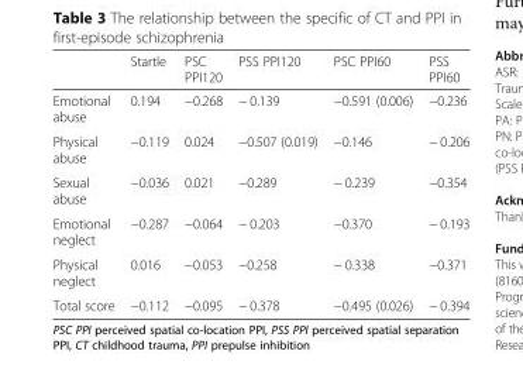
<table><thead><tr><td></td><td>Startle</td><td>PSC PPI120</td><td>PSS PPI120</td><td>PSC PPI60</td><td>PSS PPI60</td></tr></thead><tbody><tr><td>Emotional abuse</td><td>0.194</td><td>−0.268</td><td>− 0.139</td><td>−0.591 (0.006)</td><td>−0.236</td></tr><tr><td>Physical abuse</td><td>−0.119</td><td>0.024</td><td>−0.507 (0.019)</td><td>−0.146</td><td>− 0.206</td></tr><tr><td>Sexual abuse</td><td>−0.036</td><td>0.021</td><td>−0.289</td><td>− 0.239</td><td>−0.354</td></tr><tr><td>Emotional neglect</td><td>−0.287</td><td>−0.064</td><td>− 0.203</td><td>−0.370</td><td>− 0.193</td></tr><tr><td>Physical neglect</td><td>0.016</td><td>−0.053</td><td>−0.258</td><td>− 0.338</td><td>−0.371</td></tr><tr><td>Total score</td><td>−0.112</td><td>−0.095</td><td>− 0.378</td><td>−0.495 (0.026)</td><td>− 0.394</td></tr></tbody></table>